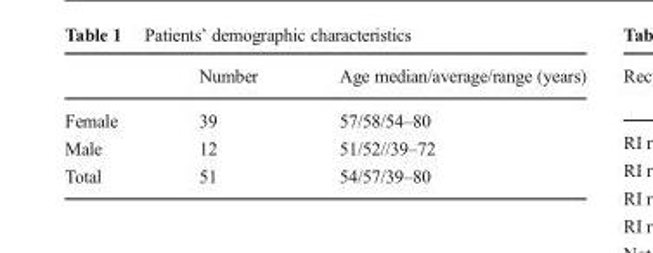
<table><thead><tr><td></td><td>Number</td><td>Age median/average/range (years)</td></tr></thead><tbody><tr><td>Female</td><td>39</td><td>57/58/54–80</td></tr><tr><td>Male</td><td>12</td><td>51/52//39–72</td></tr><tr><td>Total</td><td>51</td><td>54/57/39–80</td></tr></tbody></table>